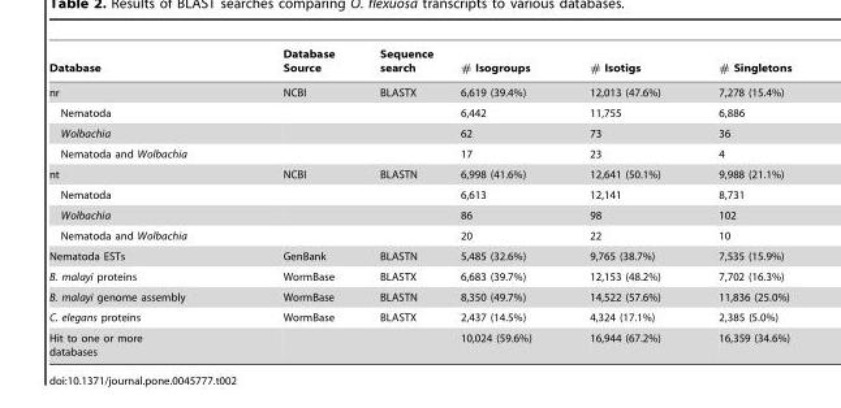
<table><thead><tr><td>Database</td><td>Database Source</td><td>Sequence search</td><td># Isogroups</td><td># Isotigs</td><td># Singletons</td></tr></thead><tbody><tr><td>nr</td><td>NCBI</td><td>BLASTX</td><td>6,619 (39.4%)</td><td>12,013 (47.6%)</td><td>7,278 (15.4%)</td></tr><tr><td>Nematoda</td><td></td><td></td><td>6,442</td><td>11,755</td><td>6,886</td></tr><tr><td>Wolbachia</td><td></td><td></td><td>62</td><td>73</td><td>36</td></tr><tr><td>Nematoda and Wolbachia</td><td></td><td></td><td>17</td><td>23</td><td>4</td></tr><tr><td>nt</td><td>NCBI</td><td>BLASTN</td><td>6,998 (41.6%)</td><td>12,641 (50.1%)</td><td>9,988 (21.1%)</td></tr><tr><td>Nematoda</td><td></td><td></td><td>6,613</td><td>12,141</td><td>8,731</td></tr><tr><td>Wolbachia</td><td></td><td></td><td>86</td><td>98</td><td>102</td></tr><tr><td>Nematoda and Wolbachia</td><td></td><td></td><td>20</td><td>22</td><td>10</td></tr><tr><td>Nematoda ESTs</td><td>GenBank</td><td>BLASTN</td><td>5,485 (32.6%)</td><td>9,765 (38.7%)</td><td>7,535 (15.9%)</td></tr><tr><td>B. malayi proteins</td><td>WormBase</td><td>BLASTX</td><td>6,683 (39.7%)</td><td>12,153 (48.2%)</td><td>7,702 (16.3%)</td></tr><tr><td>B. malayi genome assembly</td><td>WormBase</td><td>BLASTN</td><td>8,350 (49.7%)</td><td>14,522 (57.6%)</td><td>11,836 (25.0%)</td></tr><tr><td>C. elegans proteins</td><td>WormBase</td><td>BLASTX</td><td>2,437 (14.5%)</td><td>4,324 (17.1%)</td><td>2,385 (5.0%)</td></tr><tr><td>Hit to one or more databases</td><td></td><td></td><td>10,024 (59.6%)</td><td>16,944 (67.2%)</td><td>16,359 (34.6%)</td></tr></tbody></table>